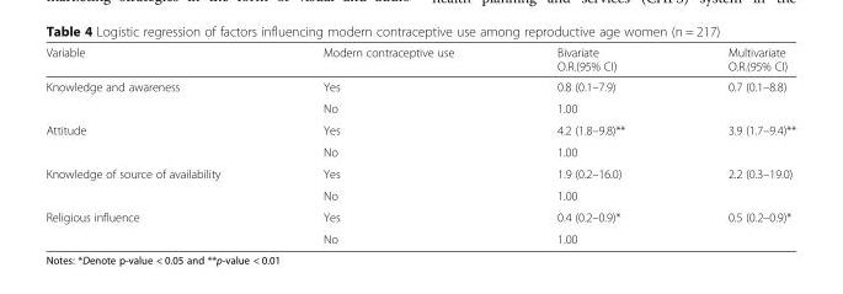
<table><thead><tr><td>Variable</td><td>Modern contraceptive use</td><td>Bivariate O.R.(95% CI)</td><td>Multivariate O.R.(95% CI)</td></tr></thead><tbody><tr><td rowspan="2">Knowledge and awareness</td><td>Yes</td><td>0.8 (0.1–7.9)</td><td rowspan="2">0.7 (0.1–8.8)</td></tr><tr><td>No</td><td>1.00</td></tr><tr><td rowspan="2">Attitude</td><td>Yes</td><td>4.2 (1.8–9.8)**</td><td rowspan="2">3.9 (1.7–9.4)**</td></tr><tr><td>No</td><td>1.00</td></tr><tr><td rowspan="2">Knowledge of source of availability</td><td>Yes</td><td>1.9 (0.2–16.0)</td><td rowspan="2">2.2 (0.3–19.0)</td></tr><tr><td>No</td><td>1.00</td></tr><tr><td rowspan="2">Religious influence</td><td>Yes</td><td>0.4 (0.2–0.9)*</td><td rowspan="2">0.5 (0.2–0.9)*</td></tr><tr><td>No</td><td>1.00</td></tr></tbody></table>